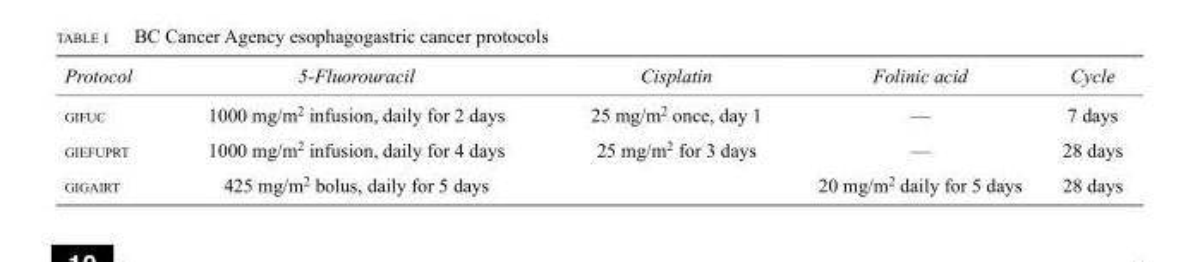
<table><thead><tr><td>Protocol</td><td>5-Fluorouracil</td><td>Cisplatin</td><td>Folinic acid</td><td>Cycle</td></tr></thead><tbody><tr><td>gifuc</td><td>1000 mg/m<sup>2</sup> infusion, daily for 2 days</td><td>25 mg/m<sup>2</sup> once, day 1</td><td>—</td><td>7 days</td></tr><tr><td>giefuprt</td><td>1000 mg/m<sup>2</sup> infusion, daily for 4 days</td><td>25 mg/m<sup>2</sup> for 3 days</td><td>—</td><td>28 days</td></tr><tr><td>gigairt</td><td>425 mg/m<sup>2</sup> bolus, daily for 5 days</td><td></td><td>20 mg/m<sup>2</sup> daily for 5 days</td><td>28 days</td></tr></tbody></table>